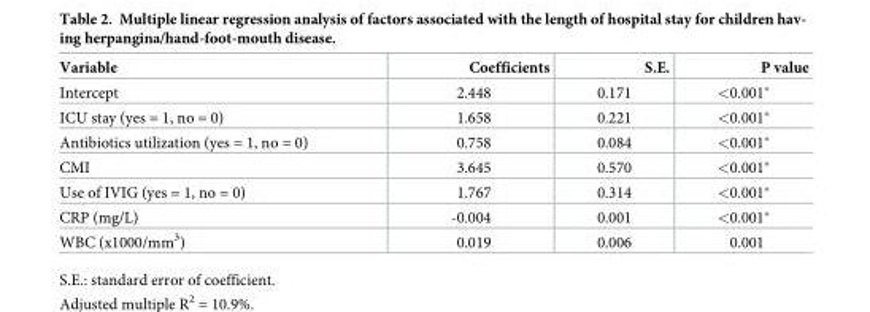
<table><thead><tr><td>Variable</td><td>Coefficients</td><td>S.E.</td><td>P value</td></tr></thead><tbody><tr><td>Intercept</td><td>2.448</td><td>0.171</td><td>&lt;0.001*</td></tr><tr><td>ICU stay (yes = 1, no = 0)</td><td>1.658</td><td>0.221</td><td>&lt;0.001*</td></tr><tr><td>Antibiotics utilization (yes = 1, no = 0)</td><td>0.758</td><td>0.084</td><td>&lt;0.001*</td></tr><tr><td>CMI</td><td>3.645</td><td>0.570</td><td>&lt;0.001*</td></tr><tr><td>Use of IVIG (yes = 1, no = 0)</td><td>1.767</td><td>0.314</td><td>&lt;0.001*</td></tr><tr><td>CRP (mg/L)</td><td>-0.004</td><td>0.001</td><td>&lt;0.001*</td></tr><tr><td>WBC (x1000/mm<sup>3</sup>)</td><td>0.019</td><td>0.006</td><td>0.001</td></tr></tbody></table>